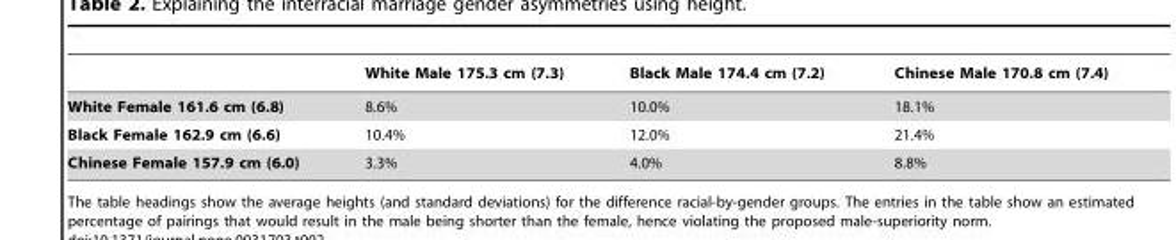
<table><thead><tr><td></td><td>White Male 175.3 cm (7.3)</td><td>Black Male 174.4 cm (7.2)</td><td>Chinese Male 170.8 cm (7.4)</td></tr></thead><tbody><tr><td>White Female 161.6 cm (6.8)</td><td>8.6%</td><td>10.0%</td><td>18.1%</td></tr><tr><td>Black Female 162.9 cm (6.6)</td><td>10.4%</td><td>12.0%</td><td>21.4%</td></tr><tr><td>Chinese Female 157.9 cm (6.0)</td><td>3.3%</td><td>4.0%</td><td>8.8%</td></tr></tbody></table>